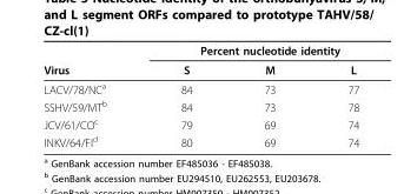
<table><thead><tr><td rowspan="2">Virus</td><td colspan="3">Percent nucleotide identity</td></tr><tr><td>S</td><td>M</td><td>L</td></tr></thead><tbody><tr><td>LACV/78/NC<sup>a</sup></td><td>84</td><td>73</td><td>77</td></tr><tr><td>SSHV/59/MT<sup>b</sup></td><td>84</td><td>73</td><td>78</td></tr><tr><td>JCV/61/CO<sup>c</sup></td><td>79</td><td>69</td><td>74</td></tr><tr><td>INKV/64/FI<sup>d</sup></td><td>80</td><td>69</td><td>74</td></tr></tbody></table>